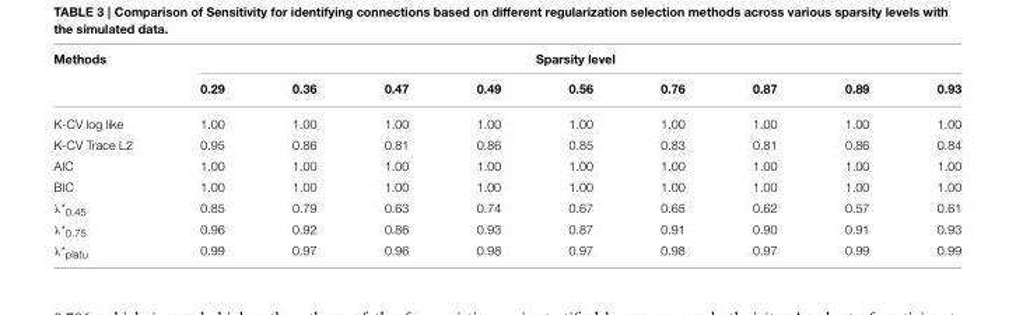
<table><thead><tr><td rowspan="2">Methods</td><td colspan="9">Sparsity level</td></tr><tr><td>0.29</td><td>0.36</td><td>0.47</td><td>0.49</td><td>0.56</td><td>0.76</td><td>0.87</td><td>0.89</td><td>0.93</td></tr></thead><tbody><tr><td>K-CV log like</td><td>1.00</td><td>1.00</td><td>1.00</td><td>1.00</td><td>1.00</td><td>1.00</td><td>1.00</td><td>1.00</td><td>1.00</td></tr><tr><td>K-CV Trace L2</td><td>0.95</td><td>0.86</td><td>0.81</td><td>0.86</td><td>0.85</td><td>0.83</td><td>0.81</td><td>0.86</td><td>0.84</td></tr><tr><td>AIC</td><td>1.00</td><td>1.00</td><td>1.00</td><td>1.00</td><td>1.00</td><td>1.00</td><td>1.00</td><td>1.00</td><td>1.00</td></tr><tr><td>BIC</td><td>1.00</td><td>1.00</td><td>1.00</td><td>1.00</td><td>1.00</td><td>1.00</td><td>1.00</td><td>1.00</td><td>1.00</td></tr><tr><td>λ*<sub>0.45</sub></td><td>0.85</td><td>0.79</td><td>0.63</td><td>0.74</td><td>0.67</td><td>0.65</td><td>0.62</td><td>0.57</td><td>0.61</td></tr><tr><td>λ*<sub>0.75</sub></td><td>0.96</td><td>0.92</td><td>0.86</td><td>0.93</td><td>0.87</td><td>0.91</td><td>0.90</td><td>0.91</td><td>0.93</td></tr><tr><td>λ*<sub>platu</sub></td><td>0.99</td><td>0.97</td><td>0.96</td><td>0.98</td><td>0.97</td><td>0.98</td><td>0.97</td><td>0.99</td><td>0.99</td></tr></tbody></table>